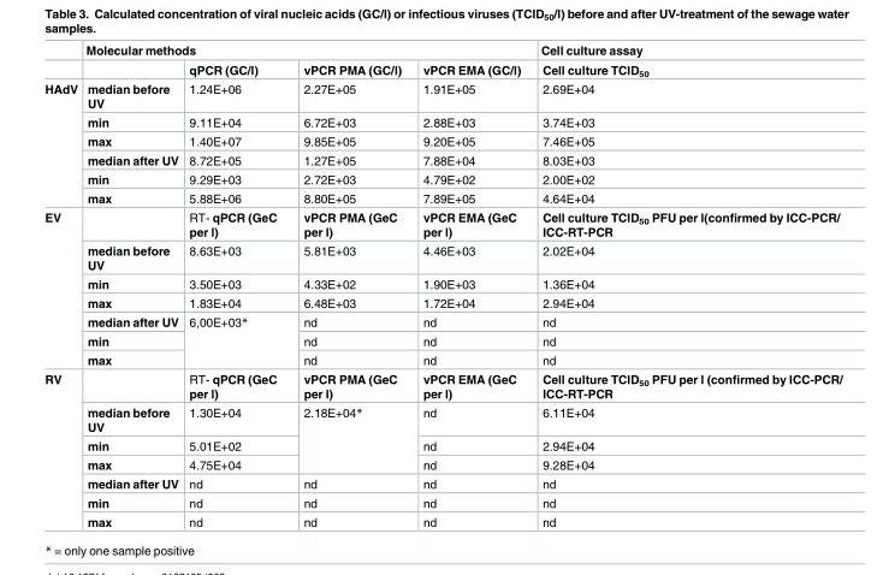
<table><thead><tr><td rowspan="2"></td><td colspan="4">Molecular methods</td><td rowspan="2">Cell culture assay Cell culture TCID<sub>50</sub></td></tr><tr><td></td><td>qPCR (GC/l)</td><td>vPCR PMA (GC/l)</td><td>vPCR EMA (GC/l)</td></tr></thead><tbody><tr><td rowspan="6">HAdV</td><td>median before UV</td><td>1.24E+06</td><td>2.27E+05</td><td>1.91E+05</td><td>2.69E+04</td></tr><tr><td>min</td><td>9.11E+04</td><td>6.72E+03</td><td>2.88E+03</td><td>3.74E+03</td></tr><tr><td>max</td><td>1.40E+07</td><td>9.85E+05</td><td>9.20E+05</td><td>7.46E+05</td></tr><tr><td>median after UV</td><td>8.72E+05</td><td>1.27E+05</td><td>7.88E+04</td><td>8.03E+03</td></tr><tr><td>min</td><td>9.29E+03</td><td>2.72E+03</td><td>4.79E+02</td><td>2.00E+02</td></tr><tr><td>max</td><td>5.88E+06</td><td>8.80E+05</td><td>7.89E+05</td><td>4.64E+04</td></tr><tr><td rowspan="7">EV</td><td></td><td>RT- qPCR (GeC per l)</td><td>vPCR PMA (GeC per l)</td><td>vPCR EMA (GeC per l)</td><td>Cell culture TCID<sub>50</sub> PFU per l(confirmed by ICC-PCR/ ICC-RT-PCR</td></tr><tr><td>median before UV</td><td>8.63E+03</td><td>5.81E+03</td><td>4.46E+03</td><td>2.02E+04</td></tr><tr><td>min</td><td>3.50E+03</td><td>4.33E+02</td><td>1.90E+03</td><td>1.36E+04</td></tr><tr><td>max</td><td>1.83E+04</td><td>6.48E+03</td><td>1.72E+04</td><td>2.94E+04</td></tr><tr><td>median after UV</td><td rowspan="3">6,00E+03*</td><td>nd</td><td>nd</td><td>nd</td></tr><tr><td>min</td><td>nd</td><td>nd</td><td>nd</td></tr><tr><td>max</td><td>nd</td><td>nd</td><td>nd</td></tr><tr><td rowspan="7">RV</td><td></td><td>RT- qPCR (GeC per l)</td><td>vPCR PMA (GeC per l)</td><td>vPCR EMA (GeC per l)</td><td>Cell culture TCID<sub>50</sub> PFU per l (confirmed by ICC-PCR/ ICC-RT-PCR</td></tr><tr><td>median before UV</td><td>1.30E+04</td><td rowspan="3">2.18E+04*</td><td>nd</td><td>6.11E+04</td></tr><tr><td>min</td><td>5.01E+02</td><td>nd</td><td>2.94E+04</td></tr><tr><td>max</td><td>4.75E+04</td><td>nd</td><td>9.28E+04</td></tr><tr><td>median after UV</td><td>nd</td><td>nd</td><td>nd</td><td>nd</td></tr><tr><td>min</td><td>nd</td><td>nd</td><td>nd</td><td>nd</td></tr><tr><td>max</td><td>nd</td><td>nd</td><td>nd</td><td>nd</td></tr></tbody></table>